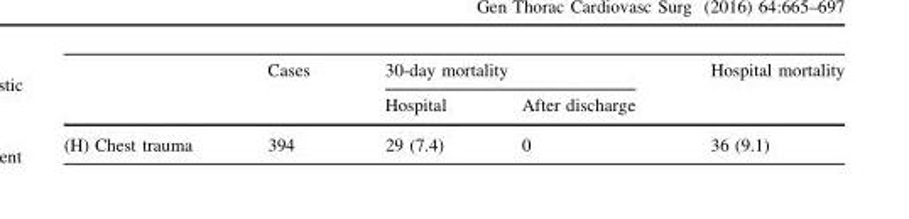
<table><thead><tr><td rowspan="2"></td><td rowspan="2">Cases</td><td colspan="2">30-day mortality</td><td rowspan="2">Hospital mortality</td></tr><tr><td>Hospital</td><td>After discharge</td></tr></thead><tbody><tr><td>(H) Chest trauma</td><td>394</td><td>29 (7.4)</td><td>0</td><td>36 (9.1)</td></tr></tbody></table>